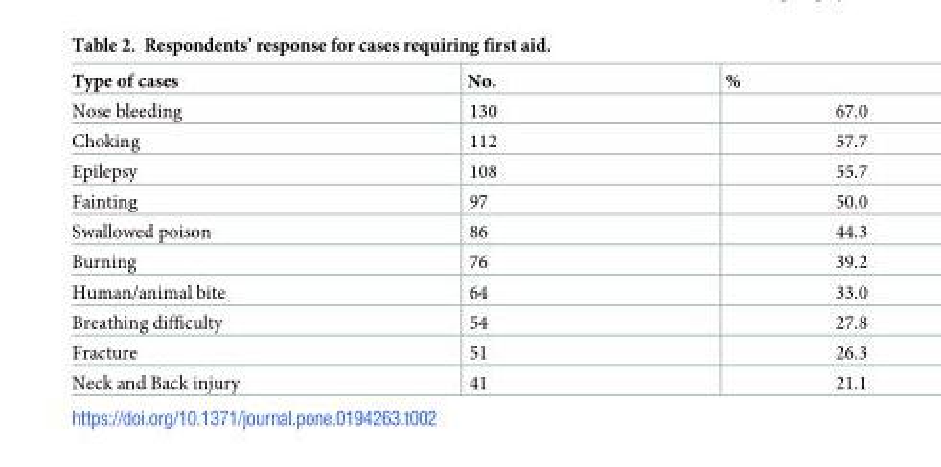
<table><thead><tr><td>Type of cases</td><td>No.</td><td>%</td></tr></thead><tbody><tr><td>Nose bleeding</td><td>130</td><td>67.0</td></tr><tr><td>Choking</td><td>112</td><td>57.7</td></tr><tr><td>Epilepsy</td><td>108</td><td>55.7</td></tr><tr><td>Fainting</td><td>97</td><td>50.0</td></tr><tr><td>Swallowed poison</td><td>86</td><td>44.3</td></tr><tr><td>Burning</td><td>76</td><td>39.2</td></tr><tr><td>Human/animal bite</td><td>64</td><td>33.0</td></tr><tr><td>Breathing difficulty</td><td>54</td><td>27.8</td></tr><tr><td>Fracture</td><td>51</td><td>26.3</td></tr><tr><td>Neck and Back injury</td><td>41</td><td>21.1</td></tr></tbody></table>